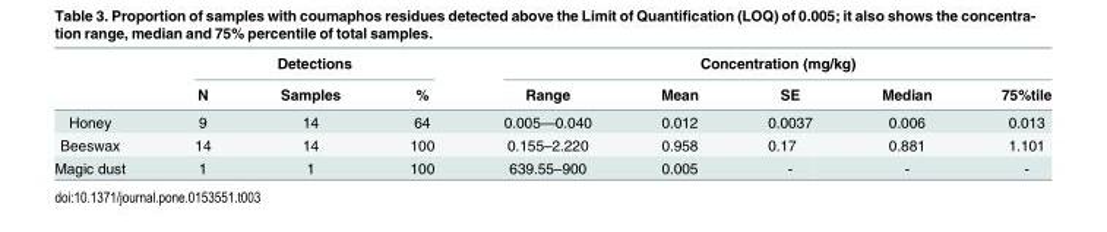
<table><thead><tr><td rowspan="2"></td><td colspan="3">Detections</td><td colspan="5">Concentration (mg/kg)</td></tr><tr><td>N</td><td>Samples</td><td>%</td><td>Range</td><td>Mean</td><td>SE</td><td>Median</td><td>75%tile</td></tr></thead><tbody><tr><td>Honey</td><td>9</td><td>14</td><td>64</td><td>0.005—0.040</td><td>0.012</td><td>0.0037</td><td>0.006</td><td>0.013</td></tr><tr><td>Beeswax</td><td>14</td><td>14</td><td>100</td><td>0.155–2.220</td><td>0.958</td><td>0.17</td><td>0.881</td><td>1.101</td></tr><tr><td>Magic dust</td><td>1</td><td>1</td><td>100</td><td>639.55–900</td><td>0.005</td><td>-</td><td>-</td><td>-</td></tr></tbody></table>